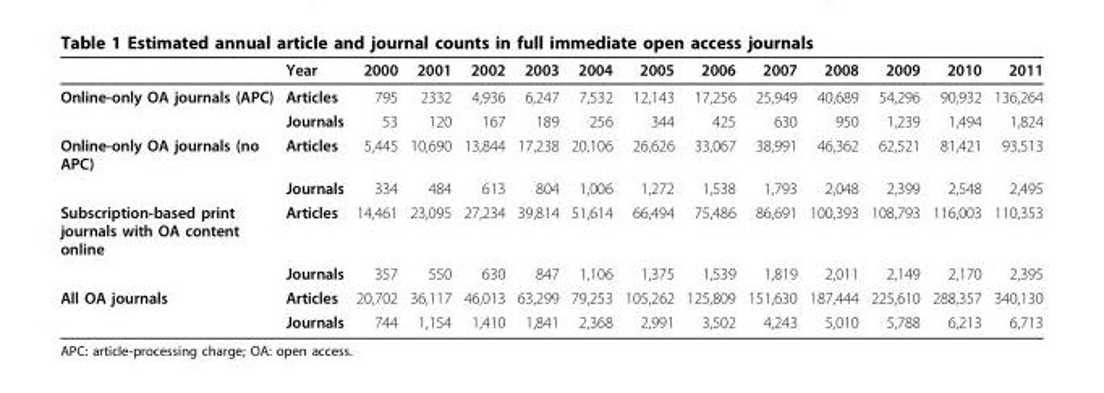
<table><thead><tr><td></td><td>Year</td><td>2000</td><td>2001</td><td>2002</td><td>2003</td><td>2004</td><td>2005</td><td>2006</td><td>2007</td><td>2008</td><td>2009</td><td>2010</td><td>2011</td></tr></thead><tbody><tr><td rowspan="2">Online-only OA journals (APC)</td><td>Articles</td><td>795</td><td>2332</td><td>4,936</td><td>6,247</td><td>7,532</td><td>12,143</td><td>17,256</td><td>25,949</td><td>40,689</td><td>54,296</td><td>90,932</td><td>136,264</td></tr><tr><td>Journals</td><td>53</td><td>120</td><td>167</td><td>189</td><td>256</td><td>344</td><td>425</td><td>630</td><td>950</td><td>1,239</td><td>1,494</td><td>1,824</td></tr><tr><td rowspan="2">Online-only OA journals (no APC)</td><td>Articles</td><td>5,445</td><td>10,690</td><td>13,844</td><td>17,238</td><td>20,106</td><td>26,626</td><td>33,067</td><td>38,991</td><td>46,362</td><td>62,521</td><td>81,421</td><td>93,513</td></tr><tr><td>Journals</td><td>334</td><td>484</td><td>613</td><td>804</td><td>1,006</td><td>1,272</td><td>1,538</td><td>1,793</td><td>2,048</td><td>2,399</td><td>2,548</td><td>2,495</td></tr><tr><td rowspan="2">Subscription-based print journals with OA content online</td><td>Articles</td><td>14,461</td><td>23,095</td><td>27,234</td><td>39,814</td><td>51,614</td><td>66,494</td><td>75,486</td><td>86,691</td><td>100,393</td><td>108,793</td><td>116,003</td><td>110,353</td></tr><tr><td>Journals</td><td>357</td><td>550</td><td>630</td><td>847</td><td>1,106</td><td>1,375</td><td>1,539</td><td>1,819</td><td>2,011</td><td>2,149</td><td>2,170</td><td>2,395</td></tr><tr><td rowspan="2">All OA journals</td><td>Articles</td><td>20,702</td><td>36,117</td><td>46,013</td><td>63,299</td><td>79,253</td><td>105,262</td><td>125,809</td><td>151,630</td><td>187,444</td><td>225,610</td><td>288,357</td><td>340,130</td></tr><tr><td>Journals</td><td>744</td><td>1,154</td><td>1,410</td><td>1,841</td><td>2,368</td><td>2,991</td><td>3,502</td><td>4,243</td><td>5,010</td><td>5,788</td><td>6,213</td><td>6,713</td></tr></tbody></table>